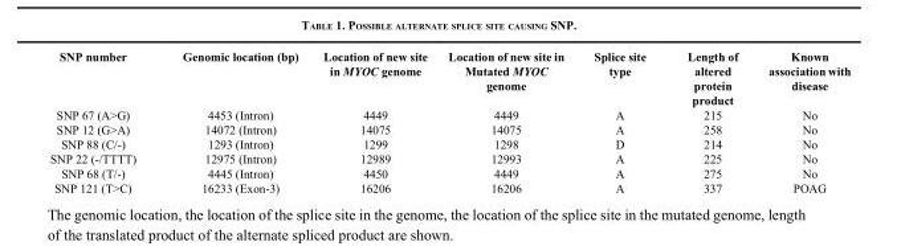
<table><thead><tr><td>SNP number</td><td>Genomic location (bp)</td><td>Location of new site in MYOC genome</td><td>Location of new site in Mutated MYOC genome</td><td>Splice site type</td><td>Length of altered protein product</td><td>Known association with disease</td></tr></thead><tbody><tr><td>SNP 67 (A&gt;G)</td><td>4453 (Intron)</td><td>4449</td><td>4449</td><td>A</td><td>215</td><td>No</td></tr><tr><td>SNP 12 (G&gt;A)</td><td>14072 (Intron)</td><td>14075</td><td>14075</td><td>A</td><td>258</td><td>No</td></tr><tr><td>SNP 88 (C/-)</td><td>1293 (Intron)</td><td>1299</td><td>1298</td><td>D</td><td>214</td><td>No</td></tr><tr><td>SNP 22 (-/TTTT)</td><td>12975 (Intron)</td><td>12989</td><td>12993</td><td>A</td><td>225</td><td>No</td></tr><tr><td>SNP 68 (T/-)</td><td>4445 (Intron)</td><td>4450</td><td>4449</td><td>A</td><td>275</td><td>No</td></tr><tr><td>SNP 121 (T&gt;C)</td><td>16233 (Exon-3)</td><td>16206</td><td>16206</td><td>A</td><td>337</td><td>POAG</td></tr></tbody></table>